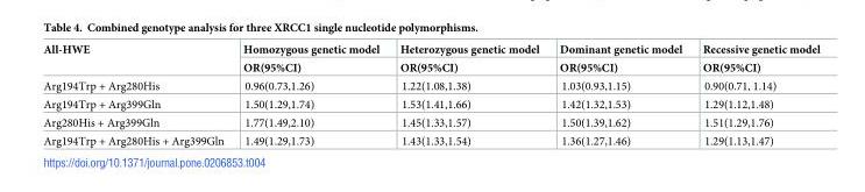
<table><thead><tr><td rowspan="2">All-HWE</td><td rowspan="2">Homozygous genetic model OR(95%CI)</td><td rowspan="2">Heterozygous genetic model OR(95%CI)</td><td rowspan="2">Dominant genetic model OR(95%CI)</td><td rowspan="2">Recessive genetic model OR(95%CI)</td></tr><tr></tr></thead><tbody><tr><td>Arg194Trp + Arg280His</td><td>0.96(0.73,1.26)</td><td>1.22(1.08,1.38)</td><td>1.03(0.93,1.15)</td><td>0.90(0.71, 1.14)</td></tr><tr><td>Arg194Trp + Arg399Gln</td><td>1.50(1.29,1.74)</td><td>1.53(1.41,1.66)</td><td>1.42(1.32,1.53)</td><td>1.29(1.12,1.48)</td></tr><tr><td>Arg280His + Arg399Gln</td><td>1.77(1.49,2.10)</td><td>1.45(1.33,1.57)</td><td>1.50(1.39,1.62)</td><td>1.51(1.29,1.76)</td></tr><tr><td>Arg194Trp + Arg280His + Arg399Gln</td><td>1.49(1.29,1.73)</td><td>1.43(1.33,1.54)</td><td>1.36(1.27,1.46)</td><td>1.29(1.13,1.47)</td></tr></tbody></table>